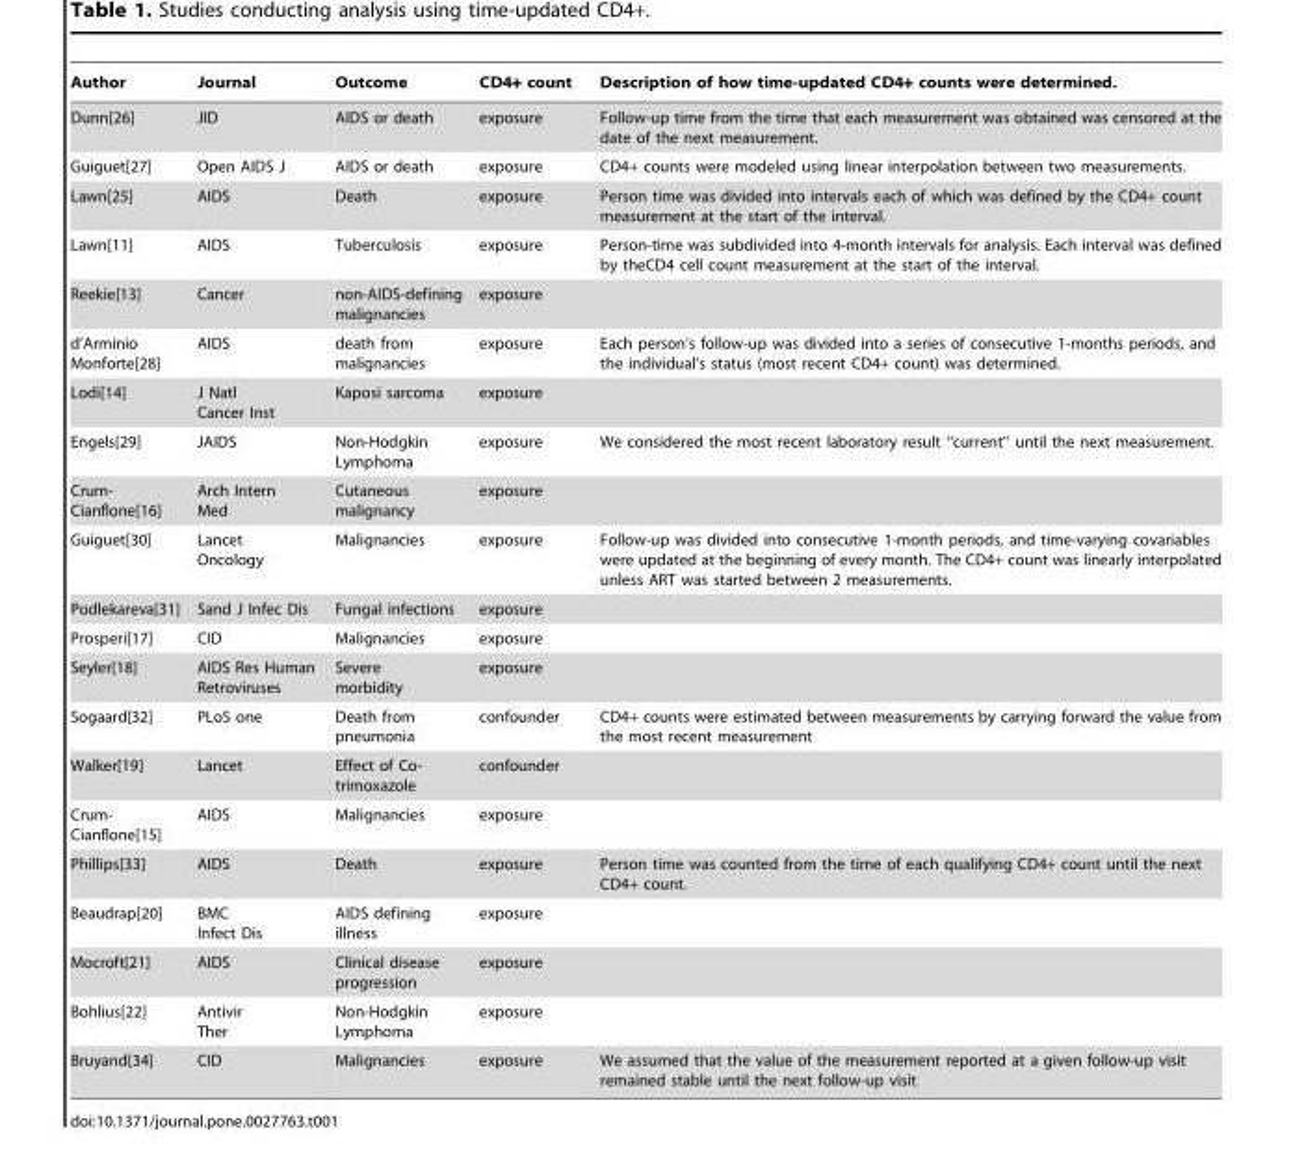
<table><thead><tr><td>Author</td><td>Journal</td><td>Outcome</td><td>CD4+ count</td><td>Description of how time-updated CD4+ counts were determined.</td></tr></thead><tbody><tr><td>Dunn[26]</td><td>JID</td><td>AIDS or death</td><td>exposure</td><td>Follow-up time from the time that each measurement was obtained was censored at the date of the next measurement.</td></tr><tr><td>Guiguet[27]</td><td>Open AIDS J</td><td>AIDS or death</td><td>exposure</td><td>CD4+ counts were modeled using linear interpolation between two measurements.</td></tr><tr><td>Lawn[25]</td><td>AIDS</td><td>Death</td><td>exposure</td><td>Person time was divided into intervals each of which was defined by the CD4+ count measurement at the start of the interval.</td></tr><tr><td>Lawn[11]</td><td>AIDS</td><td>Tuberculosis</td><td>exposure</td><td>Person-time was subdivided into 4-month intervals for analysis. Each interval was defined by theCD4 cell count measurement at the start of the interval.</td></tr><tr><td>Reekie[13]</td><td>Cancer</td><td>non-AIDS-defining malignancies</td><td>exposure</td><td></td></tr><tr><td>d’Arminio Monforte[28]</td><td>AIDS</td><td>death from malignancies</td><td>exposure</td><td>Each person’s follow-up was divided into a series of consecutive 1-months periods, and the individual’s status (most recent CD4+ count) was determined.</td></tr><tr><td>Lodi[14]</td><td>J Natl Cancer Inst</td><td>Kaposi sarcoma</td><td>exposure</td><td></td></tr><tr><td>Engels[29]</td><td>JAIDS</td><td>Non-Hodgkin Lymphoma</td><td>exposure</td><td>We considered the most recent laboratory result ‘‘current’’ until the next measurement.</td></tr><tr><td>Crum- Cianflone[16]</td><td>Arch Intern Med</td><td>Cutaneous malignancy</td><td>exposure</td><td></td></tr><tr><td>Guiguet[30]</td><td>Lancet Oncology</td><td>Malignancies</td><td>exposure</td><td>Follow-up was divided into consecutive 1-month periods, and time-varying covariables were updated at the beginning of every month. The CD4+ count was linearly interpolated unless ART was started between 2 measurements.</td></tr><tr><td>Podlekareva[31]</td><td>Sand J Infec Dis</td><td>Fungal infections</td><td>exposure</td><td></td></tr><tr><td>Prosperi[17]</td><td>CID</td><td>Malignancies</td><td>exposure</td><td></td></tr><tr><td>Seyler[18]</td><td>AIDS Res Human Retroviruses</td><td>Severe morbidity</td><td>exposure</td><td></td></tr><tr><td>Sogaard[32]</td><td>PLoS one</td><td>Death from pneumonia</td><td>confounder</td><td>CD4+ counts were estimated between measurements by carrying forward the value from the most recent measurement</td></tr><tr><td>Walker[19]</td><td>Lancet</td><td>Effect of Co- trimoxazole</td><td>confounder</td><td></td></tr><tr><td>Crum- Cianflone[15]</td><td>AIDS</td><td>Malignancies</td><td>exposure</td><td></td></tr><tr><td>Phillips[33]</td><td>AIDS</td><td>Death</td><td>exposure</td><td>Person time was counted from the time of each qualifying CD4+ count until the next CD4+ count.</td></tr><tr><td>Beaudrap[20]</td><td>BMC Infect Dis</td><td>AIDS defining illness</td><td>exposure</td><td></td></tr><tr><td>Mocroft[21]</td><td>AIDS</td><td>Clinical disease progression</td><td>exposure</td><td></td></tr><tr><td>Bohlius[22]</td><td>Antivir Ther</td><td>Non-Hodgkin Lymphoma</td><td>exposure</td><td></td></tr><tr><td>Bruyand[34]</td><td>CID</td><td>Malignancies</td><td>exposure</td><td>We assumed that the value of the measurement reported at a given follow-up visit remained stable until the next follow-up visit</td></tr></tbody></table>